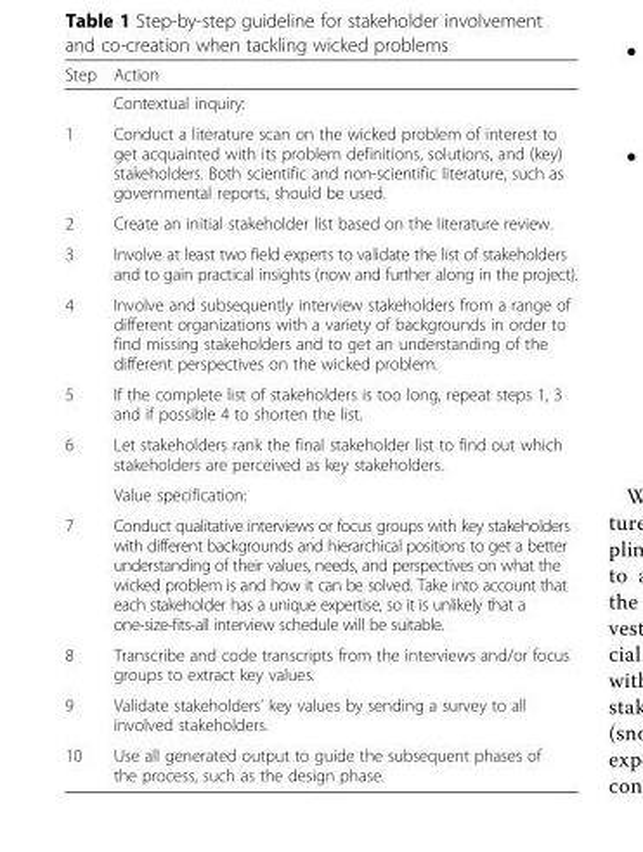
<table><thead><tr><td>Step</td><td>Action</td></tr></thead><tbody><tr><td></td><td>Contextual inquiry:</td></tr><tr><td>1</td><td>Conduct a literature scan on the wicked problem of interest to get acquainted with its problem definitions, solutions, and (key) stakeholders. Both scientific and non-scientific literature, such as governmental reports, should be used.</td></tr><tr><td>2</td><td>Create an initial stakeholder list based on the literature review.</td></tr><tr><td>3</td><td>Involve at least two field experts to validate the list of stakeholders and to gain practical insights (now and further along in the project).</td></tr><tr><td>4</td><td>Involve and subsequently interview stakeholders from a range of different organizations with a variety of backgrounds in order to find missing stakeholders and to get an understanding of the different perspectives on the wicked problem.</td></tr><tr><td>5</td><td>If the complete list of stakeholders is too long, repeat steps 1, 3 and if possible 4 to shorten the list.</td></tr><tr><td rowspan="2">6</td><td>Let stakeholders rank the final stakeholder list to find out which stakeholders are perceived as key stakeholders.</td></tr><tr><td>Value specification:</td></tr><tr><td>7</td><td>Conduct qualitative interviews or focus groups with key stakeholders with different backgrounds and hierarchical positions to get a better understanding of their values, needs, and perspectives on what the wicked problem is and how it can be solved. Take into account that each stakeholder has a unique expertise, so it is unlikely that a one-size-fits-all interview schedule will be suitable.</td></tr><tr><td>8</td><td>Transcribe and code transcripts from the interviews and/or focus groups to extract key values.</td></tr><tr><td>9</td><td>Validate stakeholders’ key values by sending a survey to all involved stakeholders.</td></tr><tr><td>10</td><td>Use all generated output to guide the subsequent phases of the process, such as the design phase.</td></tr></tbody></table>